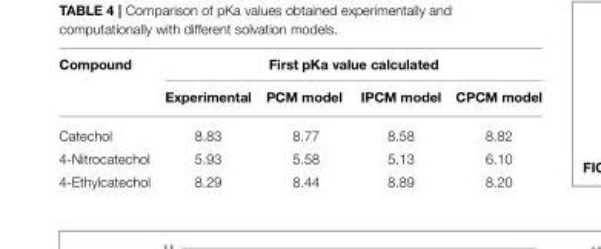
<table><thead><tr><td rowspan="2">Compound</td><td colspan="4">First pKa value calculated</td></tr><tr><td>Experimental</td><td>PCM model</td><td>IPCM model</td><td>CPCM model</td></tr></thead><tbody><tr><td>Catechol</td><td>8.83</td><td>8.77</td><td>8.58</td><td>8.82</td></tr><tr><td>4-Nitrocatechol</td><td>5.93</td><td>5.58</td><td>5.13</td><td>6.10</td></tr><tr><td>4-Ethylcatechol</td><td>8.29</td><td>8.44</td><td>8.89</td><td>8.20</td></tr></tbody></table>